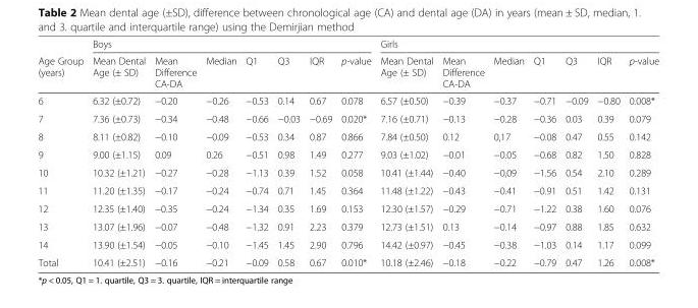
<table><thead><tr><td rowspan="2">Age Group (years)</td><td colspan="7">Boys</td><td colspan="7">Girls</td></tr><tr><td>Mean Dental Age (± SD)</td><td>Mean Difference CA-DA</td><td>Median</td><td>Q1</td><td>Q3</td><td>IQR</td><td>p-value</td><td>Mean Dental Age (± SD)</td><td>Mean Difference CA-DA</td><td>Median</td><td>Q1</td><td>Q3</td><td>IQR</td><td>p-value</td></tr></thead><tbody><tr><td>6</td><td>6.32 (±0.72)</td><td>−0.20</td><td>−0.26</td><td>−0.53</td><td>0.14</td><td>0.67</td><td>0.078</td><td>6.57 (±0.50)</td><td>−0.39</td><td>−0.37</td><td>−0.71</td><td>−0.09</td><td>−0.80</td><td>0.008*</td></tr><tr><td>7</td><td>7.36 (±0.73)</td><td>−0.34</td><td>−0.48</td><td>−0.66</td><td>−0.03</td><td>−0.69</td><td>0.020*</td><td>7.16 (±0.71)</td><td>−0.13</td><td>−0.28</td><td>−0.36</td><td>0.03</td><td>0.39</td><td>0.079</td></tr><tr><td>8</td><td>8.11 (±0.82)</td><td>−0.10</td><td>−0.09</td><td>−0.53</td><td>0.34</td><td>0.87</td><td>0.866</td><td>7.84 (±0.50)</td><td>0.12</td><td>0,17</td><td>−0.08</td><td>0.47</td><td>0.55</td><td>0.142</td></tr><tr><td>9</td><td>9.00 (±1.15)</td><td>0.09</td><td>0.26</td><td>−0.51</td><td>0.98</td><td>1.49</td><td>0.277</td><td>9.03 (±1.02)</td><td>−0.01</td><td>−0.05</td><td>−0.68</td><td>0.82</td><td>1.50</td><td>0.828</td></tr><tr><td>10</td><td>10.32 (±1.21)</td><td>−0.27</td><td>−0.28</td><td>−1.13</td><td>0.39</td><td>1.52</td><td>0.058</td><td>10.41 (±1.44)</td><td>−0.40</td><td>−0,09</td><td>−1.56</td><td>0.54</td><td>2.10</td><td>0.289</td></tr><tr><td>11</td><td>11.20 (±1.35)</td><td>−0.17</td><td>−0.24</td><td>−0.74</td><td>0.71</td><td>1.45</td><td>0.364</td><td>11.48 (±1.22)</td><td>−0.43</td><td>−0.41</td><td>−0.91</td><td>0.51</td><td>1.42</td><td>0.131</td></tr><tr><td>12</td><td>12.35 (±1.40)</td><td>−0.35</td><td>−0.24</td><td>−1.34</td><td>0.35</td><td>1.69</td><td>0.153</td><td>12.30 (±1.57)</td><td>−0.29</td><td>−0.71</td><td>−1.22</td><td>0.38</td><td>1.60</td><td>0.076</td></tr><tr><td>13</td><td>13.07 (±1.96)</td><td>−0.07</td><td>−0.48</td><td>−1.32</td><td>0.91</td><td>2.23</td><td>0.379</td><td>12.73 (±1.51)</td><td>0.13</td><td>−0.14</td><td>−0.97</td><td>0.88</td><td>1.85</td><td>0.632</td></tr><tr><td>14</td><td>13.90 (±1.54)</td><td>−0.05</td><td>−0.10</td><td>−1.45</td><td>1.45</td><td>2.90</td><td>0.796</td><td>14.42 (±0.97)</td><td>−0.45</td><td>−0.38</td><td>−1.03</td><td>0.14</td><td>1.17</td><td>0.099</td></tr><tr><td>Total</td><td>10.41 (±2.51)</td><td>−0.16</td><td>−0.21</td><td>−0.09</td><td>0.58</td><td>0.67</td><td>0.010*</td><td>10.18 (±2.46)</td><td>−0.18</td><td>−0.22</td><td>−0.79</td><td>0.47</td><td>1.26</td><td>0.008*</td></tr></tbody></table>